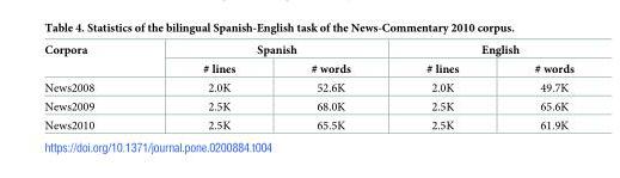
<table><thead><tr><td rowspan="2">Corpora</td><td colspan="2">Spanish</td><td colspan="2">English</td></tr><tr><td># lines</td><td># words</td><td># lines</td><td># words</td></tr></thead><tbody><tr><td>News2008</td><td>2.0K</td><td>52.6K</td><td>2.0K</td><td>49.7K</td></tr><tr><td>News2009</td><td>2.5K</td><td>68.0K</td><td>2.5K</td><td>65.6K</td></tr><tr><td>News2010</td><td>2.5K</td><td>65.5K</td><td>2.5K</td><td>61.9K</td></tr></tbody></table>